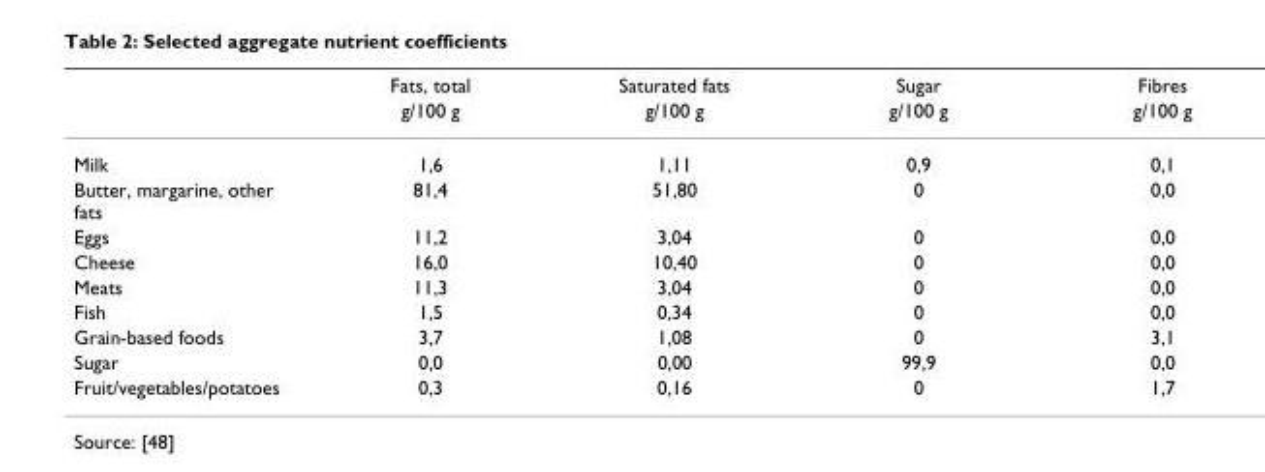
<table><thead><tr><td rowspan="2"></td><td rowspan="2">Fats, total g/100 g</td><td rowspan="2">Saturated fats g/100 g</td><td rowspan="2">Sugar g/100 g</td><td rowspan="2">Fibres g/100 g</td></tr><tr></tr></thead><tbody><tr><td>Milk</td><td>1,6</td><td>1,11</td><td>0,9</td><td>0,1</td></tr><tr><td>Butter, margarine, other fats</td><td>81,4</td><td>51,80</td><td>0</td><td>0,0</td></tr><tr><td>Eggs</td><td>11,2</td><td>3,04</td><td>0</td><td>0,0</td></tr><tr><td>Cheese</td><td>16,0</td><td>10,40</td><td>0</td><td>0,0</td></tr><tr><td>Meats</td><td>11,3</td><td>3,04</td><td>0</td><td>0,0</td></tr><tr><td>Fish</td><td>1,5</td><td>0,34</td><td>0</td><td>0,0</td></tr><tr><td>Grain-based foods</td><td>3,7</td><td>1,08</td><td>0</td><td>3,1</td></tr><tr><td>Sugar</td><td>0,0</td><td>0,00</td><td>99,9</td><td>0,0</td></tr><tr><td>Fruit/vegetables/potatoes</td><td>0,3</td><td>0,16</td><td>0</td><td>1,7</td></tr></tbody></table>